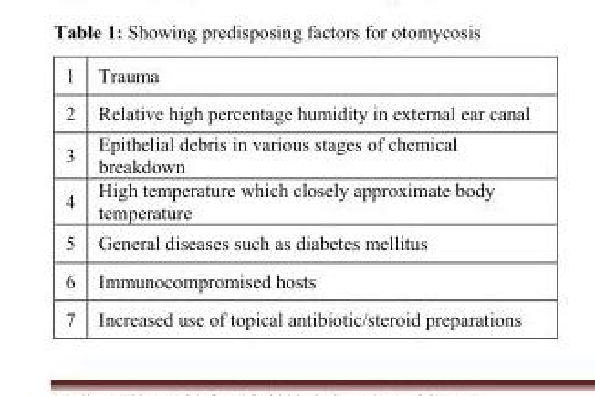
<table><tbody><tr><td>1</td><td>Trauma</td></tr><tr><td>2</td><td>Relative high percentage humidity in external ear canal</td></tr><tr><td>3</td><td>Epithelial debris in various stages of chemical breakdown</td></tr><tr><td>4</td><td>High temperature which closely approximate body temperature</td></tr><tr><td>5</td><td>General diseases such as diabetes mellitus</td></tr><tr><td>6</td><td>Immunocompromised hosts</td></tr><tr><td>7</td><td>Increased use of topical antibiotic/steroid preparations</td></tr></tbody></table>